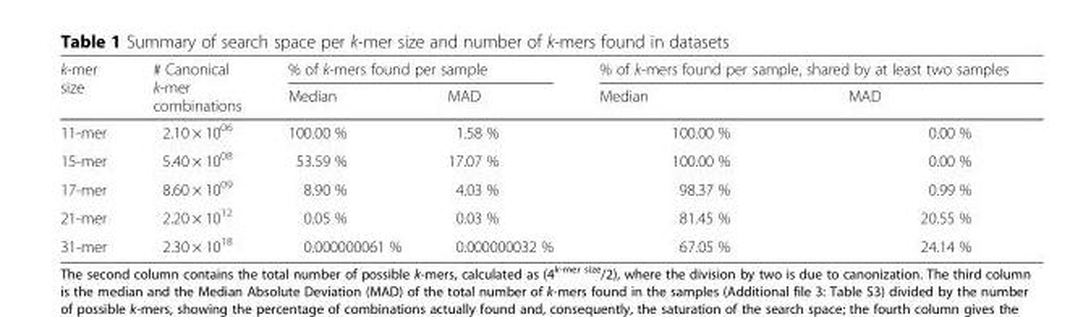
<table><thead><tr><td rowspan="2">k-mer size</td><td rowspan="2"># Canonical k-mer combinations</td><td colspan="2">% of k-mers found per sample</td><td colspan="2">% of k-mers found per sample, shared by at least two samples</td></tr><tr><td>Median</td><td>MAD</td><td>Median</td><td>MAD</td></tr></thead><tbody><tr><td>11-mer</td><td>2.10 × 10<sup>06</sup></td><td>100.00 %</td><td>1.58 %</td><td>100.00 %</td><td>0.00 %</td></tr><tr><td>15-mer</td><td>5.40 × 10<sup>08</sup></td><td>53.59 %</td><td>17.07 %</td><td>100.00 %</td><td>0.00 %</td></tr><tr><td>17-mer</td><td>8.60 × 10<sup>09</sup></td><td>8.90 %</td><td>4.03 %</td><td>98.37 %</td><td>0.99 %</td></tr><tr><td>21-mer</td><td>2.20 × 10<sup>12</sup></td><td>0.05 %</td><td>0.03 %</td><td>81.45 %</td><td>20.55 %</td></tr><tr><td>31-mer</td><td>2.30 × 10<sup>18</sup></td><td>0.000000061 %</td><td>0.000000032 %</td><td>67.05 %</td><td>24.14 %</td></tr></tbody></table>